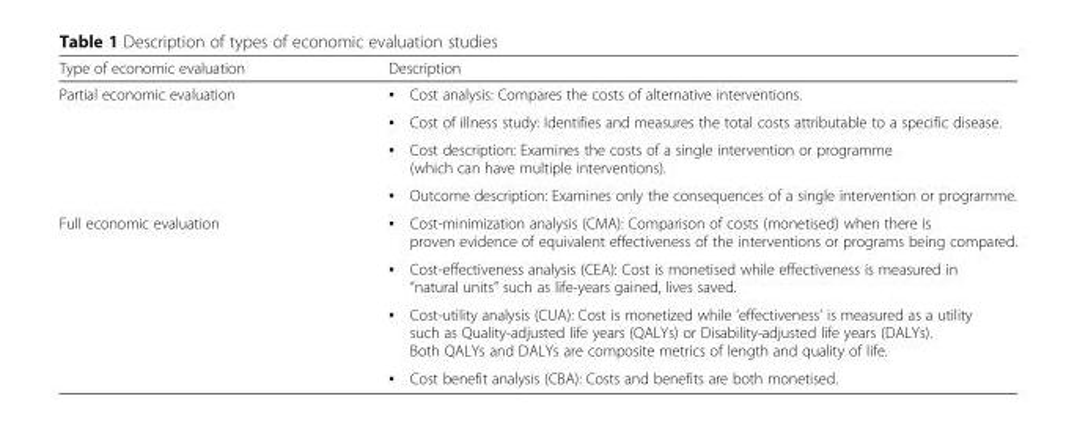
<table><thead><tr><td>Type of economic evaluation</td><td>Description</td></tr></thead><tbody><tr><td rowspan="4">Partial economic evaluation</td><td>▪ Cost analysis: Compares the costs of alternative interventions.</td></tr><tr><td>▪ Cost of illness study: Identifies and measures the total costs attributable to a specific disease.</td></tr><tr><td>▪ Cost description: Examines the costs of a single intervention or programme (which can have multiple interventions).</td></tr><tr><td>▪ Outcome description: Examines only the consequences of a single intervention or programme.</td></tr><tr><td rowspan="4">Full economic evaluation</td><td>▪ Cost-minimization analysis (CMA): Comparison of costs (monetised) when there is proven evidence of equivalent effectiveness of the interventions or programs being compared.</td></tr><tr><td>▪ Cost-effectiveness analysis (CEA): Cost is monetised while effectiveness is measured in “natural units” such as life-years gained, lives saved.</td></tr><tr><td>▪ Cost-utility analysis (CUA): Cost is monetized while ‘effectiveness’ is measured as a utility such as Quality-adjusted life years (QALYs) or Disability-adjusted life years (DALYs). Both QALYs and DALYs are composite metrics of length and quality of life.</td></tr><tr><td>▪ Cost benefit analysis (CBA): Costs and benefits are both monetised.</td></tr></tbody></table>